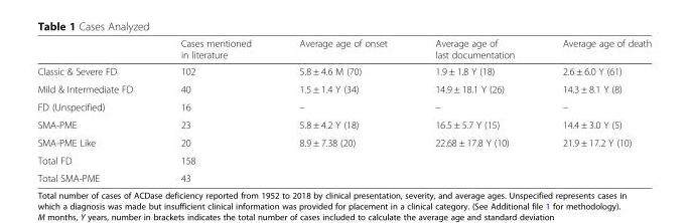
<table><thead><tr><td></td><td>Cases mentioned in literature</td><td>Average age of onset</td><td>Average age of last documentation</td><td>Average age of death</td></tr></thead><tbody><tr><td>Classic &amp; Severe FD</td><td>102</td><td>5.8 ± 4.6 M (70)</td><td>1.9 ± 1.8 Y (18)</td><td>2.6 ± 6.0 Y (61)</td></tr><tr><td>Mild &amp; Intermediate FD</td><td>40</td><td>1.5 ± 1.4 Y (34)</td><td>14.9 ± 18.1 Y (26)</td><td>14.3 ± 8.1 Y (8)</td></tr><tr><td>FD (Unspecified)</td><td>16</td><td>–</td><td>–</td><td>–</td></tr><tr><td>SMA-PME</td><td>23</td><td>5.8 ± 4.2 Y (18)</td><td>16.5 ± 5.7 Y (15)</td><td>14.4 ± 3.0 Y (5)</td></tr><tr><td>SMA-PME Like</td><td>20</td><td>8.9 ± 7.38 (20)</td><td>22.68 ± 17.8 Y (10)</td><td>21.9 ± 17.2 Y (10)</td></tr><tr><td>Total FD</td><td>158</td><td></td><td></td><td></td></tr><tr><td>Total SMA-PME</td><td>43</td><td></td><td></td><td></td></tr></tbody></table>